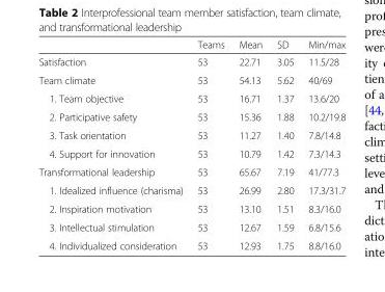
<table><thead><tr><td></td><td>Teams</td><td>Mean</td><td>SD</td><td>Min/max</td></tr></thead><tbody><tr><td>Satisfaction</td><td>53</td><td>22.71</td><td>3.05</td><td>11.5/28</td></tr><tr><td>Team climate</td><td>53</td><td>54.13</td><td>5.62</td><td>40/69</td></tr><tr><td>1. Team objective</td><td>53</td><td>16.71</td><td>1.37</td><td>13.6/20</td></tr><tr><td>2. Participative safety</td><td>53</td><td>15.36</td><td>1.88</td><td>10.2/19.8</td></tr><tr><td>3. Task orientation</td><td>53</td><td>11.27</td><td>1.40</td><td>7.8/14.8</td></tr><tr><td>4. Support for innovation</td><td>53</td><td>10.79</td><td>1.42</td><td>7.3/14.3</td></tr><tr><td>Transformational leadership</td><td>53</td><td>65.67</td><td>7.19</td><td>41/77.3</td></tr><tr><td>1. Idealized influence (charisma)</td><td>53</td><td>26.99</td><td>2.80</td><td>17.3/31.7</td></tr><tr><td>2. Inspiration motivation</td><td>53</td><td>13.10</td><td>1.51</td><td>8.3/16.0</td></tr><tr><td>3. Intellectual stimulation</td><td>53</td><td>12.67</td><td>1.59</td><td>6.8/15.6</td></tr><tr><td>4. Individualized consideration</td><td>53</td><td>12.93</td><td>1.75</td><td>8.8/16.0</td></tr></tbody></table>